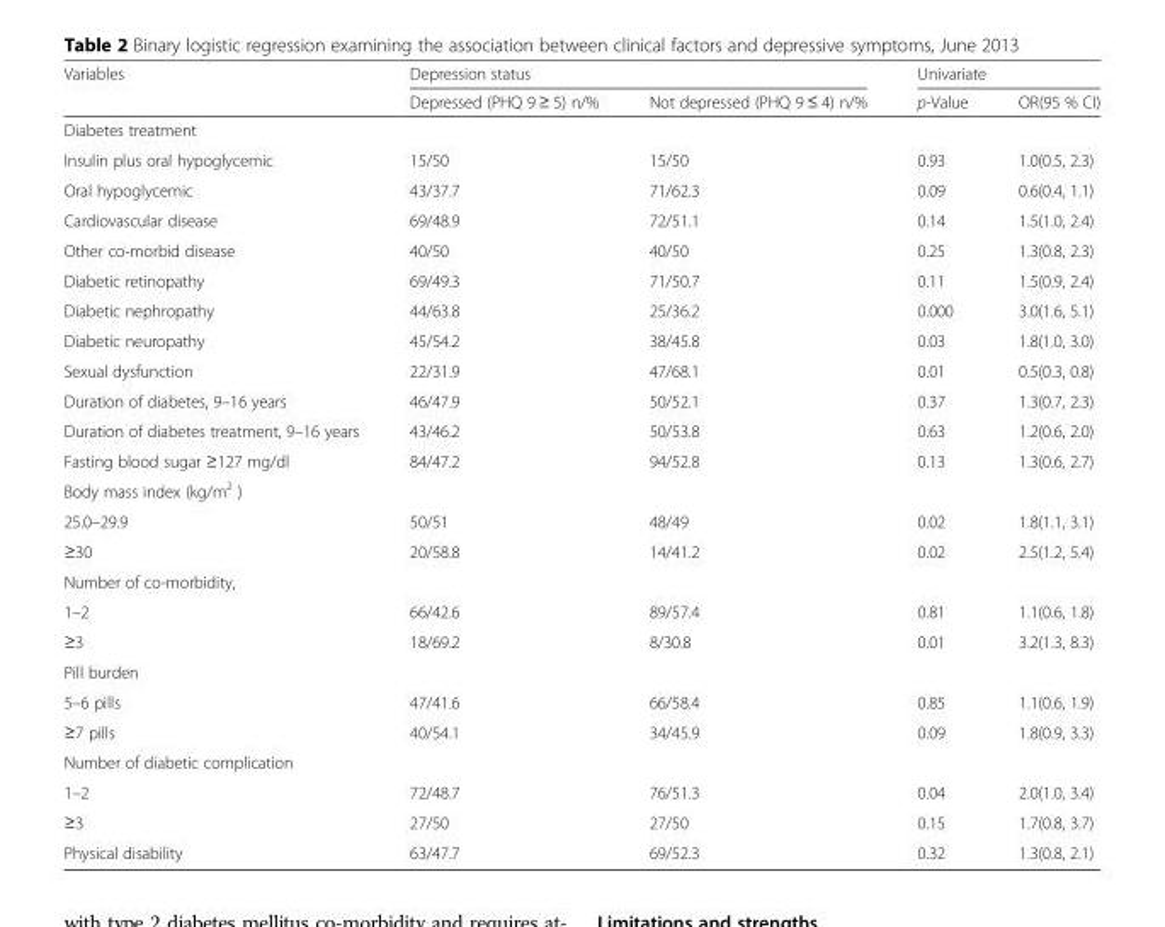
<table><thead><tr><td rowspan="2">Variables</td><td colspan="2">Depression status</td><td colspan="2">Univariate</td></tr><tr><td>Depressed (PHQ 9 ≥ 5) n/%</td><td>Not depressed (PHQ 9 ≤ 4) n/%</td><td>p-Value</td><td>OR(95 % CI)</td></tr></thead><tbody><tr><td colspan="5">Diabetes treatment</td></tr><tr><td>Insulin plus oral hypoglycemic</td><td>15/50</td><td>15/50</td><td>0.93</td><td>1.0(0.5, 2.3)</td></tr><tr><td>Oral hypoglycemic</td><td>43/37.7</td><td>71/62.3</td><td>0.09</td><td>0.6(0.4, 1.1)</td></tr><tr><td>Cardiovascular disease</td><td>69/48.9</td><td>72/51.1</td><td>0.14</td><td>1.5(1.0, 2.4)</td></tr><tr><td>Other co-morbid disease</td><td>40/50</td><td>40/50</td><td>0.25</td><td>1.3(0.8, 2.3)</td></tr><tr><td>Diabetic retinopathy</td><td>69/49.3</td><td>71/50.7</td><td>0.11</td><td>1.5(0.9, 2.4)</td></tr><tr><td>Diabetic nephropathy</td><td>44/63.8</td><td>25/36.2</td><td>0.000</td><td>3.0(1.6, 5.1)</td></tr><tr><td>Diabetic neuropathy</td><td>45/54.2</td><td>38/45.8</td><td>0.03</td><td>1.8(1.0, 3.0)</td></tr><tr><td>Sexual dysfunction</td><td>22/31.9</td><td>47/68.1</td><td>0.01</td><td>0.5(0.3, 0.8)</td></tr><tr><td>Duration of diabetes, 9–16 years</td><td>46/47.9</td><td>50/52.1</td><td>0.37</td><td>1.3(0.7, 2.3)</td></tr><tr><td>Duration of diabetes treatment, 9–16 years</td><td>43/46.2</td><td>50/53.8</td><td>0.63</td><td>1.2(0.6, 2.0)</td></tr><tr><td>Fasting blood sugar ≥127 mg/dl</td><td>84/47.2</td><td>94/52.8</td><td>0.13</td><td>1.3(0.6, 2.7)</td></tr><tr><td colspan="5">Body mass index (kg/m<sup>2</sup> )</td></tr><tr><td>25.0–29.9</td><td>50/51</td><td>48/49</td><td>0.02</td><td>1.8(1.1, 3.1)</td></tr><tr><td>≥30</td><td>20/58.8</td><td>14/41.2</td><td>0.02</td><td>2.5(1.2, 5.4)</td></tr><tr><td colspan="5">Number of co-morbidity,</td></tr><tr><td>1–2</td><td>66/42.6</td><td>89/57.4</td><td>0.81</td><td>1.1(0.6, 1.8)</td></tr><tr><td>≥3</td><td>18/69.2</td><td>8/30.8</td><td>0.01</td><td>3.2(1.3, 8.3)</td></tr><tr><td colspan="5">Pill burden</td></tr><tr><td>5–6 pills</td><td>47/41.6</td><td>66/58.4</td><td>0.85</td><td>1.1(0.6, 1.9)</td></tr><tr><td>≥7 pills</td><td>40/54.1</td><td>34/45.9</td><td>0.09</td><td>1.8(0.9, 3.3)</td></tr><tr><td colspan="5">Number of diabetic complication</td></tr><tr><td>1–2</td><td>72/48.7</td><td>76/51.3</td><td>0.04</td><td>2.0(1.0, 3.4)</td></tr><tr><td>≥3</td><td>27/50</td><td>27/50</td><td>0.15</td><td>1.7(0.8, 3.7)</td></tr><tr><td>Physical disability</td><td>63/47.7</td><td>69/52.3</td><td>0.32</td><td>1.3(0.8, 2.1)</td></tr></tbody></table>